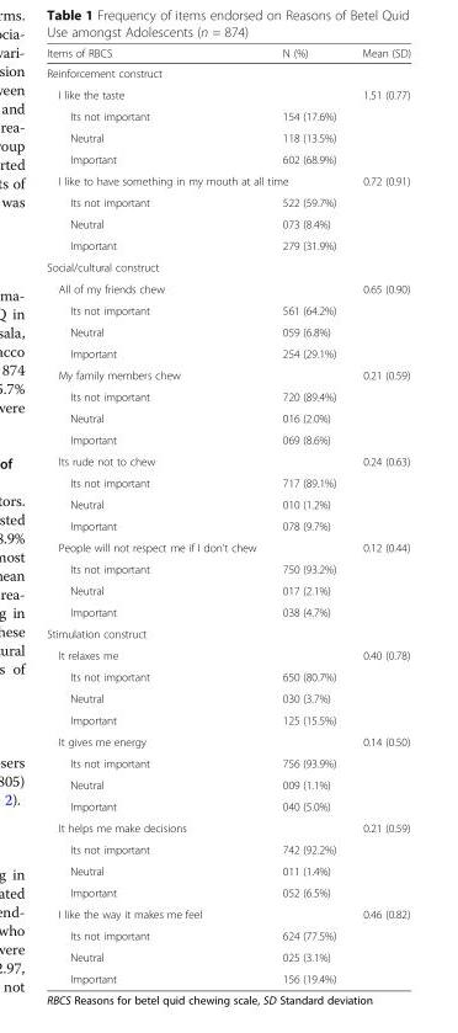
<table><thead><tr><td>Items of RBCS</td><td>N (%)</td><td>Mean (SD)</td></tr></thead><tbody><tr><td colspan="3">Reinforcement construct</td></tr><tr><td>I like the taste</td><td></td><td>1.51 (0.77)</td></tr><tr><td>Its not important</td><td>154 (17.6%)</td><td></td></tr><tr><td>Neutral</td><td>118 (13.5%)</td><td></td></tr><tr><td>Important</td><td>602 (68.9%)</td><td></td></tr><tr><td colspan="2">I like to have something in my mouth at all time</td><td>0.72 (0.91)</td></tr><tr><td>Its not important</td><td>522 (59.7%)</td><td></td></tr><tr><td>Neutral</td><td>073 (8.4%)</td><td></td></tr><tr><td>Important</td><td>279 (31.9%)</td><td></td></tr><tr><td colspan="3">Social/cultural construct</td></tr><tr><td>All of my friends chew</td><td></td><td>0.65 (0.90)</td></tr><tr><td>Its not important</td><td>561 (64.2%)</td><td></td></tr><tr><td>Neutral</td><td>059 (6.8%)</td><td></td></tr><tr><td>Important</td><td>254 (29.1%)</td><td></td></tr><tr><td>My family members chew</td><td></td><td>0.21 (0.59)</td></tr><tr><td>Its not important</td><td>720 (89.4%)</td><td></td></tr><tr><td>Neutral</td><td>016 (2.0%)</td><td></td></tr><tr><td>Important</td><td>069 (8.6%)</td><td></td></tr><tr><td>Its rude not to chew</td><td></td><td>0.24 (0.63)</td></tr><tr><td>Its not important</td><td>717 (89.1%)</td><td></td></tr><tr><td>Neutral</td><td>010 (1.2%)</td><td></td></tr><tr><td>Important</td><td>078 (9.7%)</td><td></td></tr><tr><td>People will not respect me if I don’t chew</td><td></td><td>0.12 (0.44)</td></tr><tr><td>Its not important</td><td>750 (93.2%)</td><td></td></tr><tr><td>Neutral</td><td>017 (2.1%)</td><td></td></tr><tr><td>Important</td><td>038 (4.7%)</td><td></td></tr><tr><td colspan="3">Stimulation construct</td></tr><tr><td>It relaxes me</td><td></td><td>0.40 (0.78)</td></tr><tr><td>Its not important</td><td>650 (80.7%)</td><td></td></tr><tr><td>Neutral</td><td>030 (3.7%)</td><td></td></tr><tr><td>Important</td><td>125 (15.5%)</td><td></td></tr><tr><td>It gives me energy</td><td></td><td>0.14 (0.50)</td></tr><tr><td>Its not important</td><td>756 (93.9%)</td><td></td></tr><tr><td>Neutral</td><td>009 (1.1%)</td><td></td></tr><tr><td>Important</td><td>040 (5.0%)</td><td></td></tr><tr><td>It helps me make decisions</td><td></td><td>0.21 (0.59)</td></tr><tr><td>Its not important</td><td>742 (92.2%)</td><td></td></tr><tr><td>Neutral</td><td>011 (1.4%)</td><td></td></tr><tr><td>Important</td><td>052 (6.5%)</td><td></td></tr><tr><td>I like the way it makes me feel</td><td></td><td>0.46 (0.82)</td></tr><tr><td>Its not important</td><td>624 (77.5%)</td><td></td></tr><tr><td>Neutral</td><td>025 (3.1%)</td><td></td></tr><tr><td>Important</td><td>156 (19.4%)</td><td></td></tr></tbody></table>